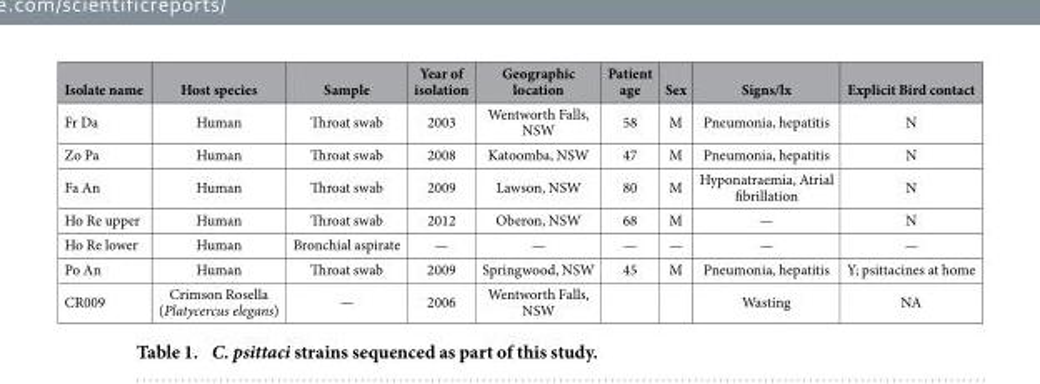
<table><thead><tr><td>Isolate name</td><td>Host species</td><td>Sample</td><td>Year of isolation</td><td>Geographic location</td><td>Patient age</td><td>Sex</td><td>Signs/lx</td><td>Explicit Bird contact</td></tr></thead><tbody><tr><td>Fr Da</td><td>Human</td><td>Throat swab</td><td>2003</td><td>Wentworth Falls, NSW</td><td>58</td><td>M</td><td>Pneumonia, hepatitis</td><td>N</td></tr><tr><td>Zo Pa</td><td>Human</td><td>Throat swab</td><td>2008</td><td>Katoomba, NSW</td><td>47</td><td>M</td><td>Pneumonia, hepatitis</td><td>N</td></tr><tr><td>Fa An</td><td>Human</td><td>Throat swab</td><td>2009</td><td>Lawson, NSW</td><td>80</td><td>M</td><td>Hyponatraemia, Atrial fibrillation</td><td>N</td></tr><tr><td>Ho Re upper</td><td>Human</td><td>Throat swab</td><td>2012</td><td>Oberon, NSW</td><td>68</td><td>M</td><td>—</td><td>N</td></tr><tr><td>Ho Re lower</td><td>Human</td><td>Bronchial aspirate</td><td>—</td><td>—</td><td>—</td><td>—</td><td>—</td><td>—</td></tr><tr><td>Po An</td><td>Human</td><td>Throat swab</td><td>2009</td><td>Springwood, NSW</td><td>45</td><td>M</td><td>Pneumonia, hepatitis</td><td>Y; psittacines at home</td></tr><tr><td>CR009</td><td>Crimson Rosella (Platycercus elegans)</td><td>—</td><td>2006</td><td>Wentworth Falls, NSW</td><td></td><td></td><td>Wasting</td><td>NA</td></tr></tbody></table>